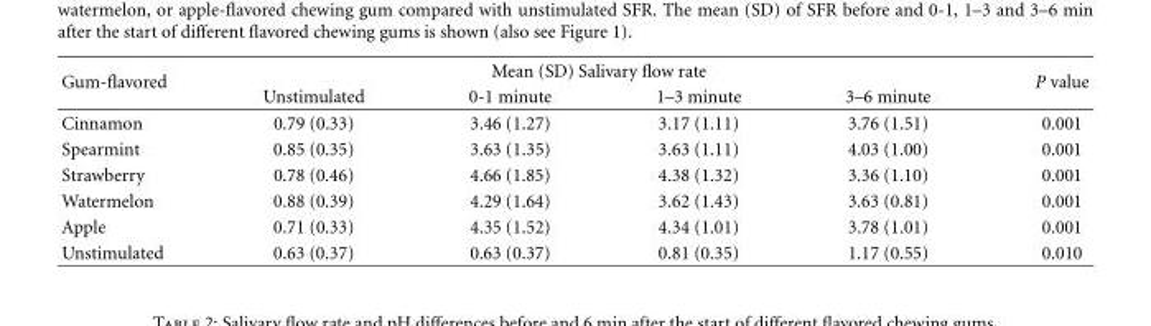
<table><thead><tr><td rowspan="2">Gum-flavored</td><td colspan="4">Mean (SD) Salivary flow rate</td><td rowspan="2">P value</td></tr><tr><td>Unstimulated</td><td>0-1 minute</td><td>1–3 minute</td><td>3–6 minute</td></tr></thead><tbody><tr><td>Cinnamon</td><td>0.79 (0.33)</td><td>3.46 (1.27)</td><td>3.17 (1.11)</td><td>3.76 (1.51)</td><td>0.001</td></tr><tr><td>Spearmint</td><td>0.85 (0.35)</td><td>3.63 (1.35)</td><td>3.63 (1.11)</td><td>4.03 (1.00)</td><td>0.001</td></tr><tr><td>Strawberry</td><td>0.78 (0.46)</td><td>4.66 (1.85)</td><td>4.38 (1.32)</td><td>3.36 (1.10)</td><td>0.001</td></tr><tr><td>Watermelon</td><td>0.88 (0.39)</td><td>4.29 (1.64)</td><td>3.62 (1.43)</td><td>3.63 (0.81)</td><td>0.001</td></tr><tr><td>Apple</td><td>0.71 (0.33)</td><td>4.35 (1.52)</td><td>4.34 (1.01)</td><td>3.78 (1.01)</td><td>0.001</td></tr><tr><td>Unstimulated</td><td>0.63 (0.37)</td><td>0.63 (0.37)</td><td>0.81 (0.35)</td><td>1.17 (0.55)</td><td>0.010</td></tr></tbody></table>